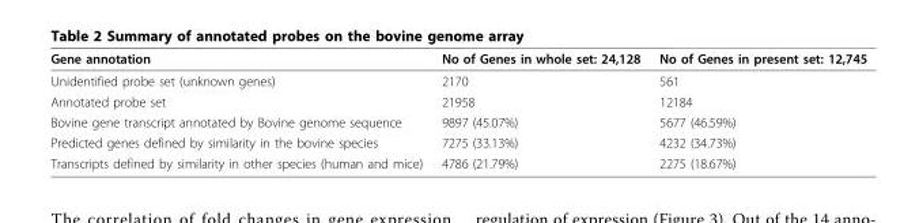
<table><thead><tr><td>Gene annotation</td><td>No of Genes in whole set: 24,128</td><td>No of Genes in present set: 12,745</td></tr></thead><tbody><tr><td>Unidentified probe set (unknown genes)</td><td>2170</td><td>561</td></tr><tr><td>Annotated probe set</td><td>21958</td><td>12184</td></tr><tr><td>Bovine gene transcript annotated by Bovine genome sequence</td><td>9897 (45.07%)</td><td>5677 (46.59%)</td></tr><tr><td>Predicted genes defined by similarity in the bovine species</td><td>7275 (33.13%)</td><td>4232 (34.73%)</td></tr><tr><td>Transcripts defined by similarity in other species (human and mice)</td><td>4786 (21.79%)</td><td>2275 (18.67%)</td></tr></tbody></table>